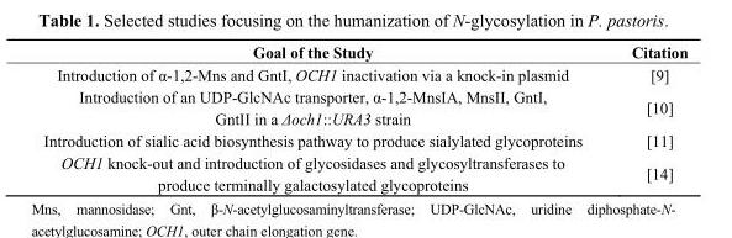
<table><thead><tr><td>Goal of the Study</td><td>Citation</td></tr></thead><tbody><tr><td>Introduction of α-1,2-Mns and GntI, OCH1 inactivation via a knock-in plasmid</td><td>[9]</td></tr><tr><td>Introduction of an UDP-GlcNAc transporter, α-1,2-MnsIA, MnsII, GntI, GntII in a Δoch1::URA3 strain</td><td>[10]</td></tr><tr><td>Introduction of sialic acid biosynthesis pathway to produce sialylated glycoproteins</td><td>[11]</td></tr><tr><td>OCH1 knock-out and introduction of glycosidases and glycosyltransferases to produce terminally galactosylated glycoproteins</td><td>[14]</td></tr></tbody></table>